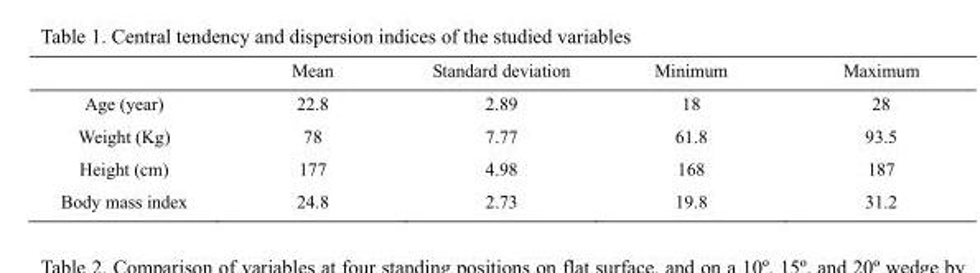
<table><thead><tr><td></td><td>Mean</td><td>Standard deviation</td><td>Minimum</td><td>Maximum</td></tr></thead><tbody><tr><td>Age (year)</td><td>22.8</td><td>2.89</td><td>18</td><td>28</td></tr><tr><td>Weight (Kg)</td><td>78</td><td>7.77</td><td>61.8</td><td>93.5</td></tr><tr><td>Height (cm)</td><td>177</td><td>4.98</td><td>168</td><td>187</td></tr><tr><td>Body mass index</td><td>24.8</td><td>2.73</td><td>19.8</td><td>31.2</td></tr></tbody></table>